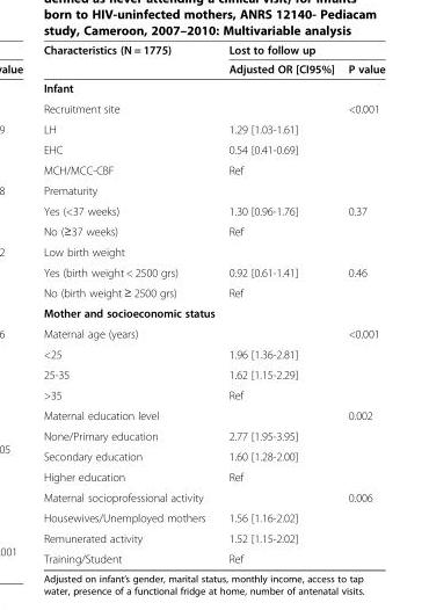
<table><thead><tr><td rowspan="2">Characteristics (N = 1775)</td><td colspan="2">Lost to follow up</td></tr><tr><td>Adjusted OR [CI95%]</td><td>P value</td></tr></thead><tbody><tr><td colspan="3">Infant</td></tr><tr><td>Recruitment site</td><td></td><td>&lt;0.001</td></tr><tr><td>LH</td><td>1.29 [1.03-1.61]</td><td></td></tr><tr><td>EHC</td><td>0.54 [0.41-0.69]</td><td></td></tr><tr><td>MCH/MCC-CBF</td><td>Ref</td><td></td></tr><tr><td colspan="3">Prematurity</td></tr><tr><td>Yes (&lt;37 weeks)</td><td>1.30 [0.96-1.76]</td><td>0.37</td></tr><tr><td>No (≥37 weeks)</td><td>Ref</td><td></td></tr><tr><td colspan="3">Low birth weight</td></tr><tr><td>Yes (birth weight &lt; 2500 grs)</td><td>0.92 [0.61-1.41]</td><td>0.46</td></tr><tr><td>No (birth weight ≥ 2500 grs)</td><td>Ref</td><td></td></tr><tr><td colspan="3">Mother and socioeconomic status</td></tr><tr><td>Maternal age (years)</td><td></td><td>&lt;0.001</td></tr><tr><td>&lt;25</td><td>1.96 [1.36-2.81]</td><td></td></tr><tr><td>25-35</td><td>1.62 [1.15-2.29]</td><td></td></tr><tr><td>&gt;35</td><td>Ref</td><td></td></tr><tr><td>Maternal education level</td><td></td><td>0.002</td></tr><tr><td>None/Primary education</td><td>2.77 [1.95-3.95]</td><td></td></tr><tr><td>Secondary education</td><td>1.60 [1.28-2.00]</td><td></td></tr><tr><td>Higher education</td><td>Ref</td><td></td></tr><tr><td>Maternal socioprofessional activity</td><td></td><td>0.006</td></tr><tr><td>Housewives/Unemployed mothers</td><td>1.56 [1.16-2.02]</td><td></td></tr><tr><td>Remunerated activity</td><td>1.52 [1.15-2.02]</td><td></td></tr><tr><td>Training/Student</td><td>Ref</td><td></td></tr></tbody></table>